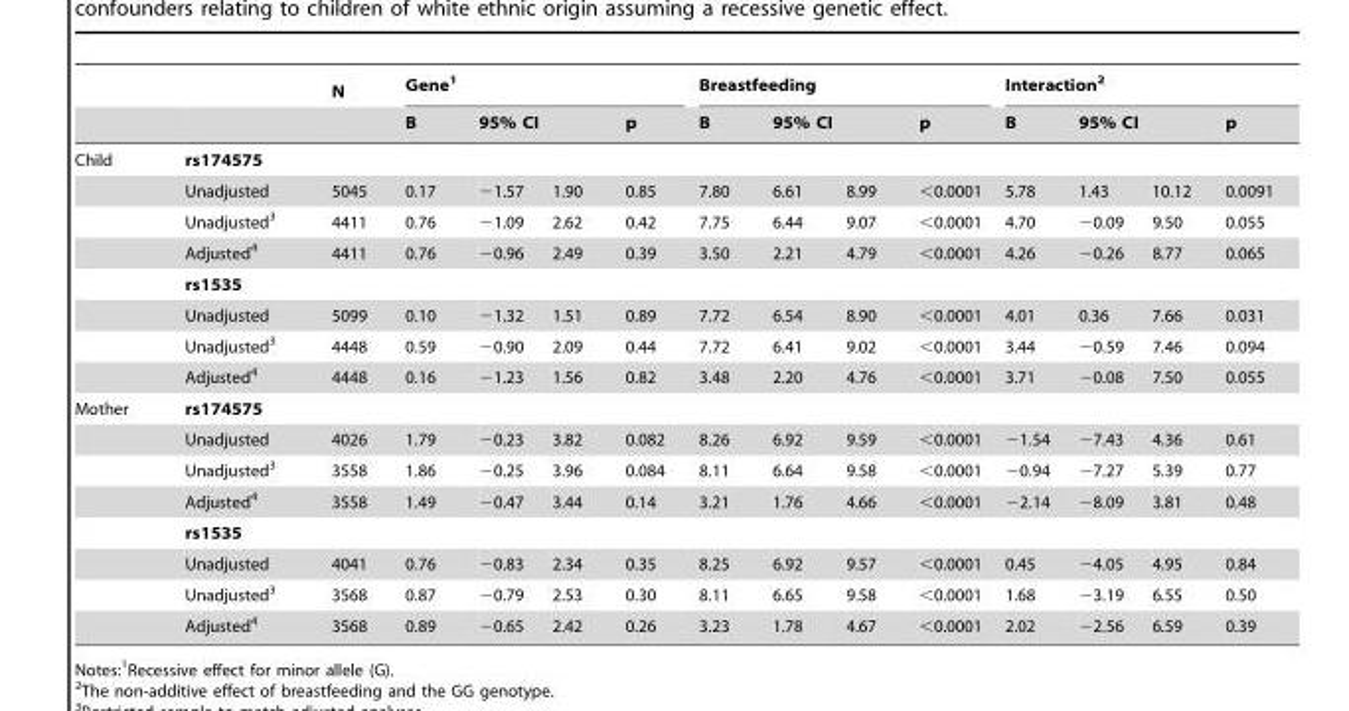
<table><thead><tr><td rowspan="3">Child</td><td rowspan="3">rs174575</td><td rowspan="3">N</td><td colspan="4">Gene<sup>1</sup></td><td colspan="4">Breastfeeding</td><td colspan="4">Interaction<sup>2</sup></td></tr><tr><td rowspan="2">B</td><td colspan="2">95% CI</td><td rowspan="2">p</td><td rowspan="2">B</td><td colspan="2">95% CI</td><td rowspan="2">p</td><td rowspan="2">B</td><td colspan="2">95% CI</td><td rowspan="2">p</td></tr><tr><td></td><td></td><td></td><td></td><td></td><td></td></tr></thead><tbody><tr><td></td><td>Unadjusted</td><td>5045</td><td>0.17</td><td>−1.57</td><td>1.90</td><td>0.85</td><td>7.80</td><td>6.61</td><td>8.99</td><td>&lt;0.0001</td><td>5.78</td><td>1.43</td><td>10.12</td><td>0.0091</td></tr><tr><td></td><td>Unadjusted<sup>3</sup></td><td>4411</td><td>0.76</td><td>−1.09</td><td>2.62</td><td>0.42</td><td>7.75</td><td>6.44</td><td>9.07</td><td>&lt;0.0001</td><td>4.70</td><td>−0.09</td><td>9.50</td><td>0.055</td></tr><tr><td></td><td>Adjusted<sup>4</sup></td><td>4411</td><td>0.76</td><td>−0.96</td><td>2.49</td><td>0.39</td><td>3.50</td><td>2.21</td><td>4.79</td><td>&lt;0.0001</td><td>4.26</td><td>−0.26</td><td>8.77</td><td>0.065</td></tr><tr><td></td><td>rs1535</td><td></td><td></td><td></td><td></td><td></td><td></td><td></td><td></td><td></td><td></td><td></td><td></td><td></td></tr><tr><td></td><td>Unadjusted</td><td>5099</td><td>0.10</td><td>−1.32</td><td>1.51</td><td>0.89</td><td>7.72</td><td>6.54</td><td>8.90</td><td>&lt;0.0001</td><td>4.01</td><td>0.36</td><td>7.66</td><td>0.031</td></tr><tr><td></td><td>Unadjusted<sup>3</sup></td><td>4448</td><td>0.59</td><td>−0.90</td><td>2.09</td><td>0.44</td><td>7.72</td><td>6.41</td><td>9.02</td><td>&lt;0.0001</td><td>3.44</td><td>−0.59</td><td>7.46</td><td>0.094</td></tr><tr><td></td><td>Adjusted<sup>4</sup></td><td>4448</td><td>0.16</td><td>−1.23</td><td>1.56</td><td>0.82</td><td>3.48</td><td>2.20</td><td>4.76</td><td>&lt;0.0001</td><td>3.71</td><td>−0.08</td><td>7.50</td><td>0.055</td></tr><tr><td rowspan="8">Mother</td><td>rs174575</td><td></td><td></td><td></td><td></td><td></td><td></td><td></td><td></td><td></td><td></td><td></td><td></td><td></td></tr><tr><td>Unadjusted</td><td>4026</td><td>1.79</td><td>−0.23</td><td>3.82</td><td>0.082</td><td>8.26</td><td>6.92</td><td>9.59</td><td>&lt;0.0001</td><td>−1.54</td><td>−7.43</td><td>4.36</td><td>0.61</td></tr><tr><td>Unadjusted<sup>3</sup></td><td>3558</td><td>1.86</td><td>−0.25</td><td>3.96</td><td>0.084</td><td>8.11</td><td>6.64</td><td>9.58</td><td>&lt;0.0001</td><td>−0.94</td><td>−7.27</td><td>5.39</td><td>0.77</td></tr><tr><td>Adjusted<sup>4</sup></td><td>3558</td><td>1.49</td><td>−0.47</td><td>3.44</td><td>0.14</td><td>3.21</td><td>1.76</td><td>4.66</td><td>&lt;0.0001</td><td>−2.14</td><td>−8.09</td><td>3.81</td><td>0.48</td></tr><tr><td>rs1535</td><td></td><td></td><td></td><td></td><td></td><td></td><td></td><td></td><td></td><td></td><td></td><td></td><td></td></tr><tr><td>Unadjusted</td><td>4041</td><td>0.76</td><td>−0.83</td><td>2.34</td><td>0.35</td><td>8.25</td><td>6.92</td><td>9.57</td><td>&lt;0.0001</td><td>0.45</td><td>−4.05</td><td>4.95</td><td>0.84</td></tr><tr><td>Unadjusted<sup>3</sup></td><td>3568</td><td>0.87</td><td>−0.79</td><td>2.53</td><td>0.30</td><td>8.11</td><td>6.65</td><td>9.58</td><td>&lt;0.0001</td><td>1.68</td><td>−3.19</td><td>6.55</td><td>0.50</td></tr><tr><td>Adjusted<sup>4</sup></td><td>3568</td><td>0.89</td><td>−0.65</td><td>2.42</td><td>0.26</td><td>3.23</td><td>1.78</td><td>4.67</td><td>&lt;0.0001</td><td>2.02</td><td>−2.56</td><td>6.59</td><td>0.39</td></tr></tbody></table>